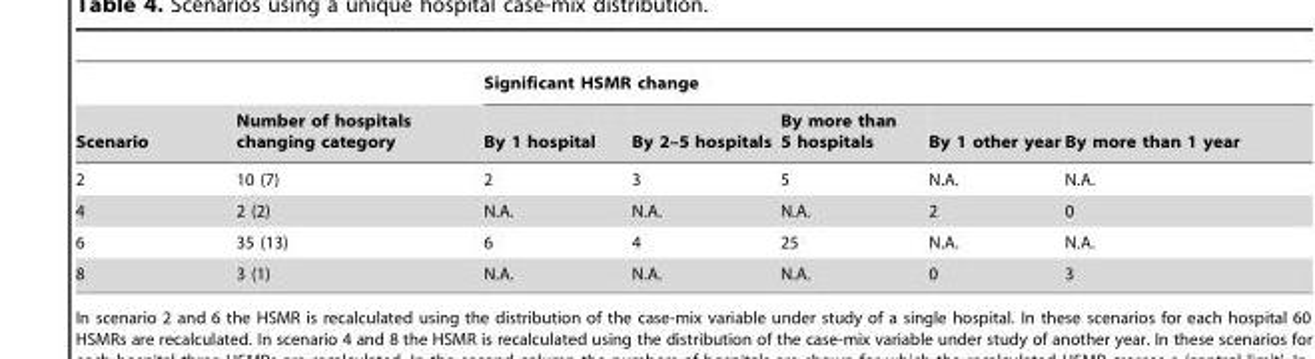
<table><thead><tr><td rowspan="2">Scenario</td><td rowspan="2">Number of hospitals changing category</td><td colspan="5">Significant HSMR change</td></tr><tr><td>By 1 hospital</td><td>By 2–5 hospitals</td><td>By more than 5 hospitals</td><td>By 1 other year</td><td>By more than 1 year</td></tr></thead><tbody><tr><td>2</td><td>10 (7)</td><td>2</td><td>3</td><td>5</td><td>N.A.</td><td>N.A.</td></tr><tr><td>4</td><td>2 (2)</td><td>N.A.</td><td>N.A.</td><td>N.A.</td><td>2</td><td>0</td></tr><tr><td>6</td><td>35 (13)</td><td>6</td><td>4</td><td>25</td><td>N.A.</td><td>N.A.</td></tr><tr><td>8</td><td>3 (1)</td><td>N.A.</td><td>N.A.</td><td>N.A.</td><td>0</td><td>3</td></tr></tbody></table>